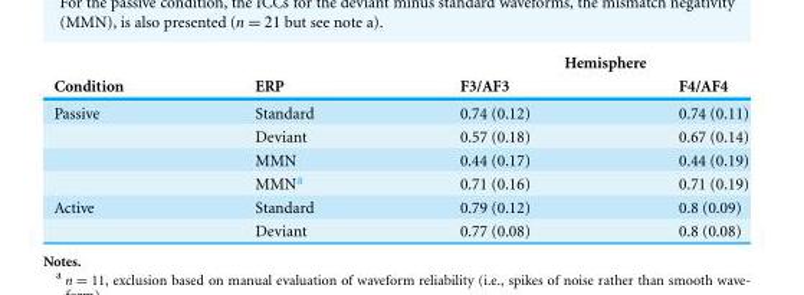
<table><thead><tr><td rowspan="2">Condition</td><td rowspan="2">ERP</td><td colspan="2">Hemisphere</td></tr><tr><td>F3/AF3</td><td>F4/AF4</td></tr></thead><tbody><tr><td rowspan="4">Passive</td><td>Standard</td><td>0.74 (0.12)</td><td>0.74 (0.11)</td></tr><tr><td>Deviant</td><td>0.57 (0.18)</td><td>0.67 (0.14)</td></tr><tr><td>MMN</td><td>0.44 (0.17)</td><td>0.44 (0.19)</td></tr><tr><td>MMN<sup>a</sup></td><td>0.71 (0.16)</td><td>0.71 (0.19)</td></tr><tr><td rowspan="2">Active</td><td>Standard</td><td>0.79 (0.12)</td><td>0.8 (0.09)</td></tr><tr><td>Deviant</td><td>0.77 (0.08)</td><td>0.8 (0.08)</td></tr></tbody></table>